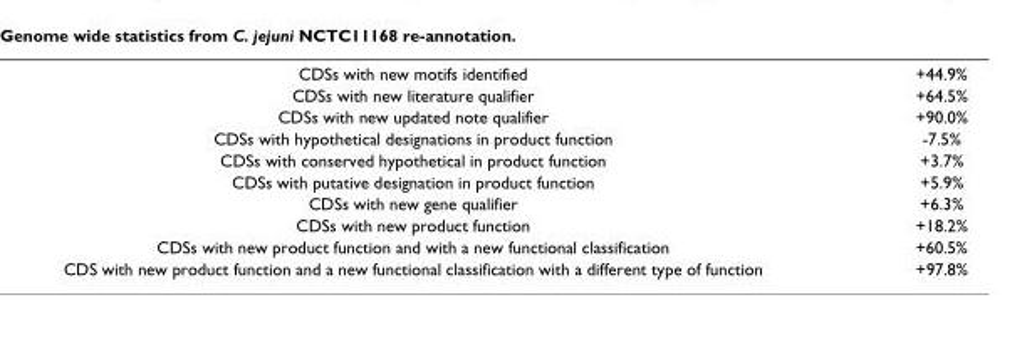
<table><tbody><tr><td>CDSs with new motifs identified</td><td>+44.9%</td></tr><tr><td>CDSs with new literature qualifier</td><td>+64.5%</td></tr><tr><td>CDSs with new updated note qualifier</td><td>+90.0%</td></tr><tr><td>CDSs with hypothetical designations in product function</td><td>-7.5%</td></tr><tr><td>CDSs with conserved hypothetical in product function</td><td>+3.7%</td></tr><tr><td>CDSs with putative designation in product function</td><td>+5.9%</td></tr><tr><td>CDSs with new gene qualifier</td><td>+6.3%</td></tr><tr><td>CDSs with new product function</td><td>+18.2%</td></tr><tr><td>CDSs with new product function and with a new functional classification</td><td>+60.5%</td></tr><tr><td>CDS with new product function and a new functional classification with a different type of function</td><td>+97.8%</td></tr></tbody></table>